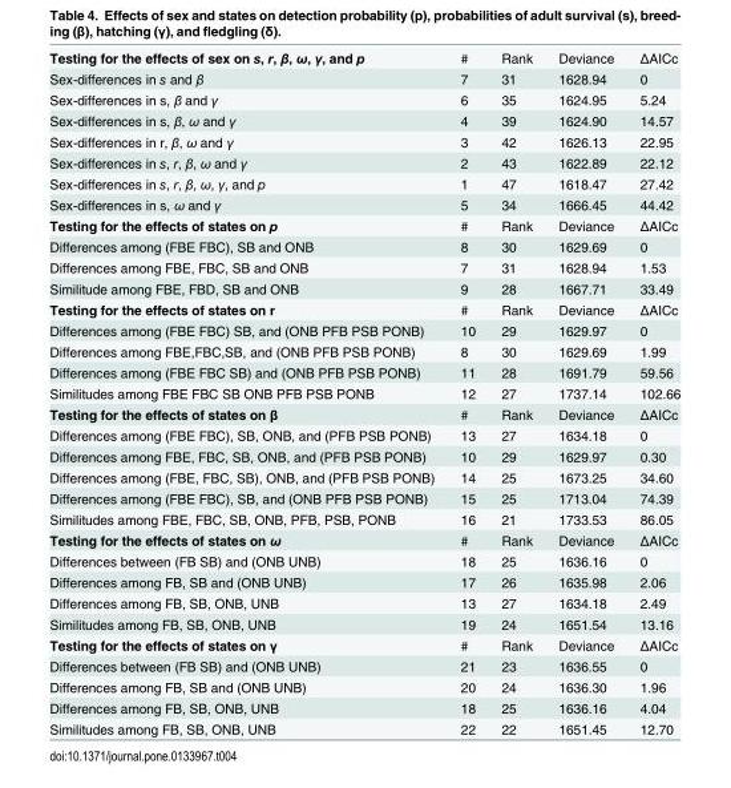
<table><tbody><tr><td>Testing for the effects of sex on s, r, β, ω, γ, and p</td><td>#</td><td>Rank</td><td>Deviance</td><td>ΔAICc</td></tr><tr><td>Sex-differences in s and β</td><td>7</td><td>31</td><td>1628.94</td><td>0</td></tr><tr><td>Sex-differences in s, β and γ</td><td>6</td><td>35</td><td>1624.95</td><td>5.24</td></tr><tr><td>Sex-differences in s, β, ω and γ</td><td>4</td><td>39</td><td>1624.90</td><td>14.57</td></tr><tr><td>Sex-differences in r, β, ω and γ</td><td>3</td><td>42</td><td>1626.13</td><td>22.95</td></tr><tr><td>Sex-differences in s, r, β, ω and γ</td><td>2</td><td>43</td><td>1622.89</td><td>22.12</td></tr><tr><td>Sex-differences in s, r, β, ω, γ, and p</td><td>1</td><td>47</td><td>1618.47</td><td>27.42</td></tr><tr><td>Sex-differences in s, ω and γ</td><td>5</td><td>34</td><td>1666.45</td><td>44.42</td></tr><tr><td>Testing for the effects of states on p</td><td>#</td><td>Rank</td><td>Deviance</td><td>ΔAICc</td></tr><tr><td>Differences among (FBE FBC), SB and ONB</td><td>8</td><td>30</td><td>1629.69</td><td>0</td></tr><tr><td>Differences among FBE, FBC, SB and ONB</td><td>7</td><td>31</td><td>1628.94</td><td>1.53</td></tr><tr><td>Similitude among FBE, FBD, SB and ONB</td><td>9</td><td>28</td><td>1667.71</td><td>33.49</td></tr><tr><td>Testing for the effects of states on r</td><td>#</td><td>Rank</td><td>Deviance</td><td>ΔAICc</td></tr><tr><td>Differences among (FBE FBC) SB, and (ONB PFB PSB PONB)</td><td>10</td><td>29</td><td>1629.97</td><td>0</td></tr><tr><td>Differences among FBE,FBC,SB, and (ONB PFB PSB PONB)</td><td>8</td><td>30</td><td>1629.69</td><td>1.99</td></tr><tr><td>Differences among (FBE FBC SB) and (ONB PFB PSB PONB)</td><td>11</td><td>28</td><td>1691.79</td><td>59.56</td></tr><tr><td>Similitudes among FBE FBC SB ONB PFB PSB PONB</td><td>12</td><td>27</td><td>1737.14</td><td>102.66</td></tr><tr><td>Testing for the effects of states on β</td><td>#</td><td>Rank</td><td>Deviance</td><td>ΔAICc</td></tr><tr><td>Differences among (FBE FBC), SB, ONB, and (PFB PSB PONB)</td><td>13</td><td>27</td><td>1634.18</td><td>0</td></tr><tr><td>Differences among FBE, FBC, SB, ONB, and (PFB PSB PONB)</td><td>10</td><td>29</td><td>1629.97</td><td>0.30</td></tr><tr><td>Differences among (FBE, FBC, SB), ONB, and (PFB PSB PONB)</td><td>14</td><td>25</td><td>1673.25</td><td>34.60</td></tr><tr><td>Differences among (FBE FBC), SB, and (ONB PFB PSB PONB)</td><td>15</td><td>25</td><td>1713.04</td><td>74.39</td></tr><tr><td>Similitudes among FBE, FBC, SB, ONB, PFB, PSB, PONB</td><td>16</td><td>21</td><td>1733.53</td><td>86.05</td></tr><tr><td>Testing for the effects of states on ω</td><td>#</td><td>Rank</td><td>Deviance</td><td>ΔAICc</td></tr><tr><td>Differences between (FB SB) and (ONB UNB)</td><td>18</td><td>25</td><td>1636.16</td><td>0</td></tr><tr><td>Differences among FB, SB and (ONB UNB)</td><td>17</td><td>26</td><td>1635.98</td><td>2.06</td></tr><tr><td>Differences among FB, SB, ONB, UNB</td><td>13</td><td>27</td><td>1634.18</td><td>2.49</td></tr><tr><td>Similitudes among FB, SB, ONB, UNB</td><td>19</td><td>24</td><td>1651.54</td><td>13.16</td></tr><tr><td>Testing for the effects of states on γ</td><td>#</td><td>Rank</td><td>Deviance</td><td>ΔAICc</td></tr><tr><td>Differences between (FB SB) and (ONB UNB)</td><td>21</td><td>23</td><td>1636.55</td><td>0</td></tr><tr><td>Differences among FB, SB and (ONB UNB)</td><td>20</td><td>24</td><td>1636.30</td><td>1.96</td></tr><tr><td>Differences among FB, SB, ONB, UNB</td><td>18</td><td>25</td><td>1636.16</td><td>4.04</td></tr><tr><td>Similitudes among FB, SB, ONB, UNB</td><td>22</td><td>22</td><td>1651.45</td><td>12.70</td></tr></tbody></table>